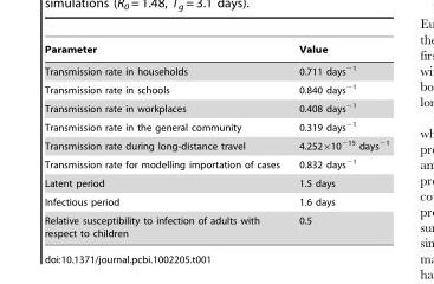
<table><thead><tr><td>Parameter</td><td>Value</td></tr></thead><tbody><tr><td>Transmission rate in households</td><td>0.711 days<sup>−1</sup></td></tr><tr><td>Transmission rate in schools</td><td>0.840 days<sup>−1</sup></td></tr><tr><td>Transmission rate in workplaces</td><td>0.408 days<sup>−1</sup></td></tr><tr><td>Transmission rate in the general community</td><td>0.319 days<sup>−1</sup></td></tr><tr><td>Transmission rate during long-distance travel</td><td>4.252×10<sup>−15</sup> days<sup>−1</sup></td></tr><tr><td>Transmission rate for modelling importation of cases</td><td>0.832 days<sup>−1</sup></td></tr><tr><td>Latent period</td><td>1.5 days</td></tr><tr><td>Infectious period</td><td>1.6 days</td></tr><tr><td>Relative susceptibility to infection of adults with respect to children</td><td>0.5</td></tr></tbody></table>